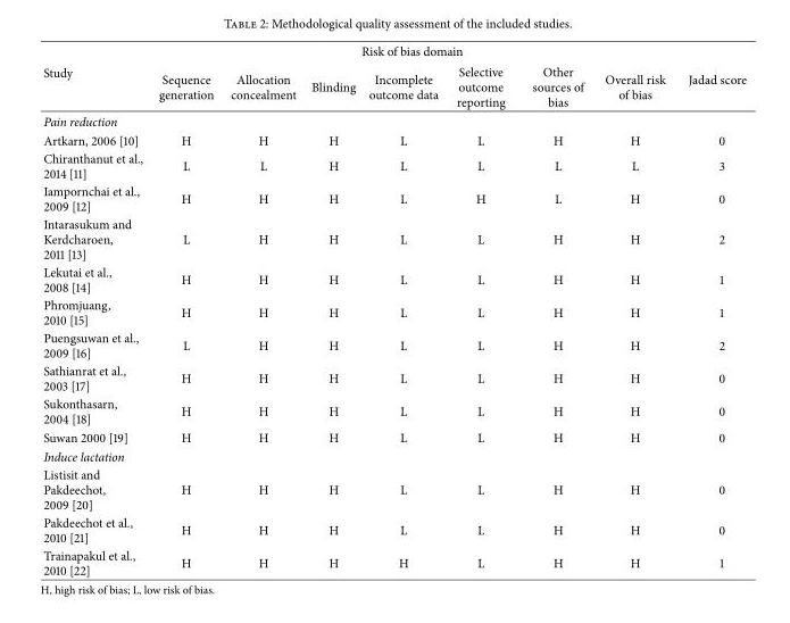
<table><thead><tr><td rowspan="2">Study</td><td colspan="7">Risk of bias domain</td><td rowspan="2">Jadad score</td></tr><tr><td>Sequence generation</td><td>Allocation concealment</td><td>Blinding</td><td>Incomplete outcome data</td><td>Selective outcome reporting</td><td>Other sources of bias</td><td>Overall risk of bias</td></tr></thead><tbody><tr><td colspan="9">Pain reduction</td></tr><tr><td>Artkarn, 2006 [10]</td><td>H</td><td>H</td><td>H</td><td>L</td><td>L</td><td>H</td><td>H</td><td>0</td></tr><tr><td>Chiranthanut et al., 2014 [11]</td><td>L</td><td>L</td><td>H</td><td>L</td><td>L</td><td>L</td><td>L</td><td>3</td></tr><tr><td>Iampornchai et al., 2009 [12]</td><td>H</td><td>H</td><td>H</td><td>L</td><td>H</td><td>L</td><td>H</td><td>0</td></tr><tr><td>Intarasukum and Kerdcharoen, 2011 [13]</td><td>L</td><td>H</td><td>H</td><td>L</td><td>L</td><td>H</td><td>H</td><td>2</td></tr><tr><td>Lekutai et al., 2008 [14]</td><td>H</td><td>H</td><td>H</td><td>L</td><td>L</td><td>H</td><td>H</td><td>1</td></tr><tr><td>Phromjuang, 2010 [15]</td><td>H</td><td>H</td><td>H</td><td>L</td><td>L</td><td>H</td><td>H</td><td>1</td></tr><tr><td>Puengsuwan et al., 2009 [16]</td><td>L</td><td>H</td><td>H</td><td>L</td><td>L</td><td>H</td><td>H</td><td>2</td></tr><tr><td>Sathianrat et al., 2003 [17]</td><td>H</td><td>H</td><td>H</td><td>L</td><td>L</td><td>H</td><td>H</td><td>0</td></tr><tr><td>Sukonthasarn, 2004 [18]</td><td>H</td><td>H</td><td>H</td><td>L</td><td>L</td><td>H</td><td>H</td><td>0</td></tr><tr><td>Suwan 2000 [19]</td><td>H</td><td>H</td><td>H</td><td>L</td><td>L</td><td>H</td><td>H</td><td>0</td></tr><tr><td colspan="9">Induce lactation</td></tr><tr><td>Listisit and Pakdeechot, 2009 [20]</td><td>H</td><td>H</td><td>H</td><td>L</td><td>L</td><td>H</td><td>H</td><td>0</td></tr><tr><td>Pakdeechot et al., 2010 [21]</td><td>H</td><td>H</td><td>H</td><td>L</td><td>L</td><td>H</td><td>H</td><td>0</td></tr><tr><td>Trainapakul et al., 2010 [22]</td><td>H</td><td>H</td><td>H</td><td>H</td><td>L</td><td>H</td><td>H</td><td>1</td></tr></tbody></table>